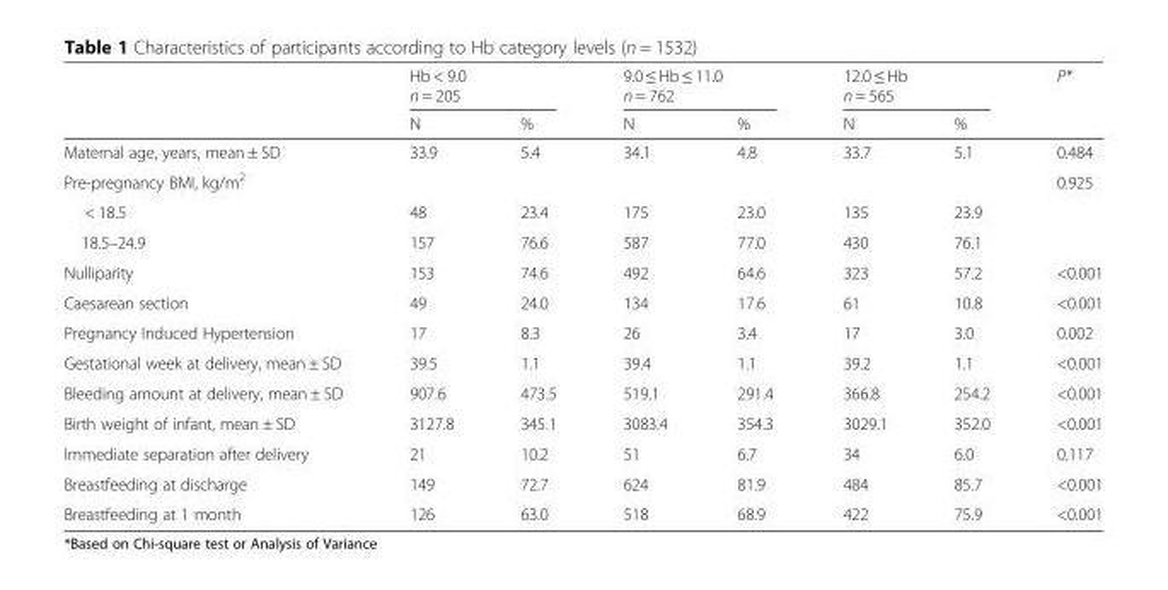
<table><thead><tr><td rowspan="3"></td><td rowspan="2" colspan="2">Hb &lt; 9.0 n = 205</td><td rowspan="2" colspan="2">9.0 ≤ Hb ≤ 11.0 n = 762</td><td rowspan="2" colspan="2">12.0 ≤ Hb n = 565</td><td rowspan="3">P*</td></tr><tr></tr><tr><td>N</td><td>%</td><td>N</td><td>%</td><td>N</td><td>%</td></tr></thead><tbody><tr><td>Maternal age, years, mean ± SD</td><td>33.9</td><td>5.4</td><td>34.1</td><td>4.8</td><td>33.7</td><td>5.1</td><td>0.484</td></tr><tr><td>Pre-pregnancy BMI, kg/m<sup>2</sup></td><td colspan="2"></td><td colspan="2"></td><td colspan="2"></td><td>0.925</td></tr><tr><td>&lt; 18.5</td><td>48</td><td>23.4</td><td>175</td><td>23.0</td><td>135</td><td>23.9</td><td></td></tr><tr><td>18.5–24.9</td><td>157</td><td>76.6</td><td>587</td><td>77.0</td><td>430</td><td>76.1</td><td></td></tr><tr><td>Nulliparity</td><td>153</td><td>74.6</td><td>492</td><td>64.6</td><td>323</td><td>57.2</td><td>&lt;0.001</td></tr><tr><td>Caesarean section</td><td>49</td><td>24.0</td><td>134</td><td>17.6</td><td>61</td><td>10.8</td><td>&lt;0.001</td></tr><tr><td>Pregnancy Induced Hypertension</td><td>17</td><td>8.3</td><td>26</td><td>3.4</td><td>17</td><td>3.0</td><td>0.002</td></tr><tr><td>Gestational week at delivery, mean ± SD</td><td>39.5</td><td>1.1</td><td>39.4</td><td>1.1</td><td>39.2</td><td>1.1</td><td>&lt;0.001</td></tr><tr><td>Bleeding amount at delivery, mean ± SD</td><td>907.6</td><td>473.5</td><td>519.1</td><td>291.4</td><td>366.8</td><td>254.2</td><td>&lt;0.001</td></tr><tr><td>Birth weight of infant, mean ± SD</td><td>3127.8</td><td>345.1</td><td>3083.4</td><td>354.3</td><td>3029.1</td><td>352.0</td><td>&lt;0.001</td></tr><tr><td>Immediate separation after delivery</td><td>21</td><td>10.2</td><td>51</td><td>6.7</td><td>34</td><td>6.0</td><td>0.117</td></tr><tr><td>Breastfeeding at discharge</td><td>149</td><td>72.7</td><td>624</td><td>81.9</td><td>484</td><td>85.7</td><td>&lt;0.001</td></tr><tr><td>Breastfeeding at 1 month</td><td>126</td><td>63.0</td><td>518</td><td>68.9</td><td>422</td><td>75.9</td><td>&lt;0.001</td></tr></tbody></table>